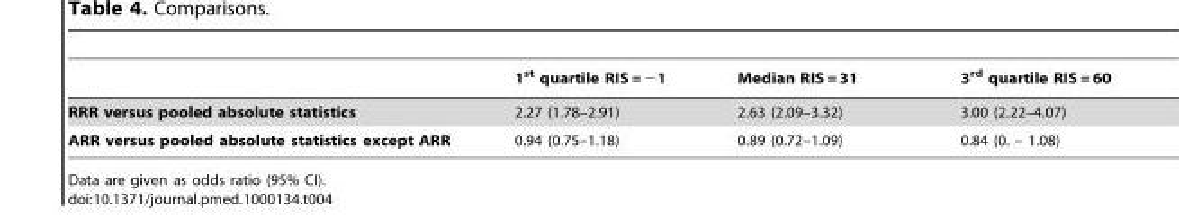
<table><thead><tr><td></td><td>1<sup>st</sup> quartile RIS = −1</td><td>Median RIS = 31</td><td>3<sup>rd</sup> quartile RIS = 60</td></tr></thead><tbody><tr><td>RRR versus pooled absolute statistics</td><td>2.27 (1.78–2.91)</td><td>2.63 (2.09–3.32)</td><td>3.00 (2.22–4.07)</td></tr><tr><td>ARR versus pooled absolute statistics except ARR</td><td>0.94 (0.75–1.18)</td><td>0.89 (0.72–1.09)</td><td>0.84 (0. – 1.08)</td></tr></tbody></table>